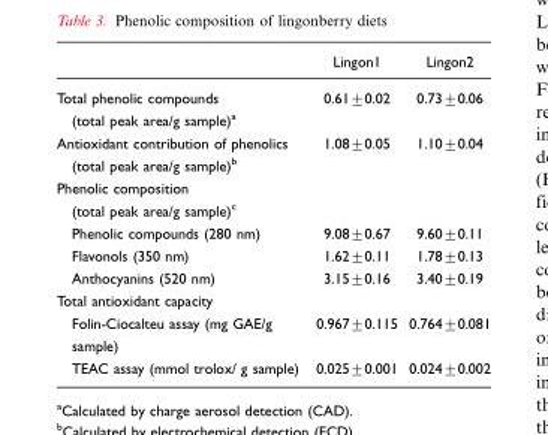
<table><thead><tr><td></td><td>Lingon1</td><td>Lingon2</td></tr></thead><tbody><tr><td>Total phenolic compounds (total peak area/g sample)<sup>a</sup></td><td>0.61±0.02</td><td>0.73±0.06</td></tr><tr><td>Antioxidant contribution of phenolics (total peak area/g sample)<sup>b</sup></td><td>1.08±0.05</td><td>1.10±0.04</td></tr><tr><td colspan="3">Phenolic composition (total peak area/g sample)<sup>c</sup></td></tr><tr><td>Phenolic compounds (280 nm)</td><td>9.08±0.67</td><td>9.60±0.11</td></tr><tr><td>Flavonols (350 nm)</td><td>1.62±0.11</td><td>1.78±0.13</td></tr><tr><td>Anthocyanins (520 nm)</td><td>3.15±0.16</td><td>3.40±0.19</td></tr><tr><td colspan="3">Total antioxidant capacity</td></tr><tr><td>Folin-Ciocalteu assay (mg GAE/g sample)</td><td>0.967±0.115</td><td>0.764±0.081</td></tr><tr><td>TEAC assay (mmol trolox/ g sample)</td><td>0.025±0.001</td><td>0.024±0.002</td></tr></tbody></table>